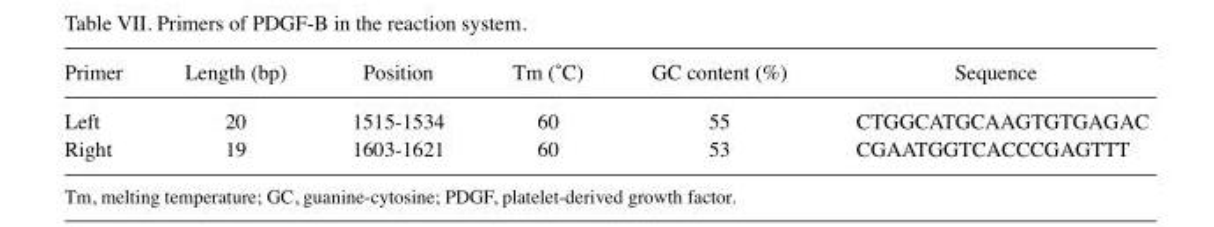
<table><thead><tr><td>Primer</td><td>Length (bp)</td><td>Position</td><td>Tm (˚C)</td><td>GC content (%)</td><td>Sequence</td></tr></thead><tbody><tr><td>Left</td><td>20</td><td>1515-1534</td><td>60</td><td>55</td><td>CTGGCATGCAAGTGTGAGAC</td></tr><tr><td>Right</td><td>19</td><td>1603-1621</td><td>60</td><td>53</td><td>CGAATGGTCACCCGAGTTT</td></tr></tbody></table>